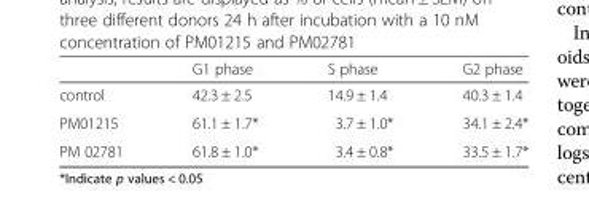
<table><thead><tr><td></td><td>G1 phase</td><td>S phase</td><td>G2 phase</td></tr></thead><tbody><tr><td>control</td><td>42.3 ± 2.5</td><td>14.9 ± 1.4</td><td>40.3 ± 1.4</td></tr><tr><td>PM01215</td><td>61.1 ± 1.7*</td><td>3.7 ± 1.0*</td><td>34.1 ± 2.4*</td></tr><tr><td>PM 02781</td><td>61.8 ± 1.0*</td><td>3.4 ± 0.8*</td><td>33.5 ± 1.7*</td></tr></tbody></table>